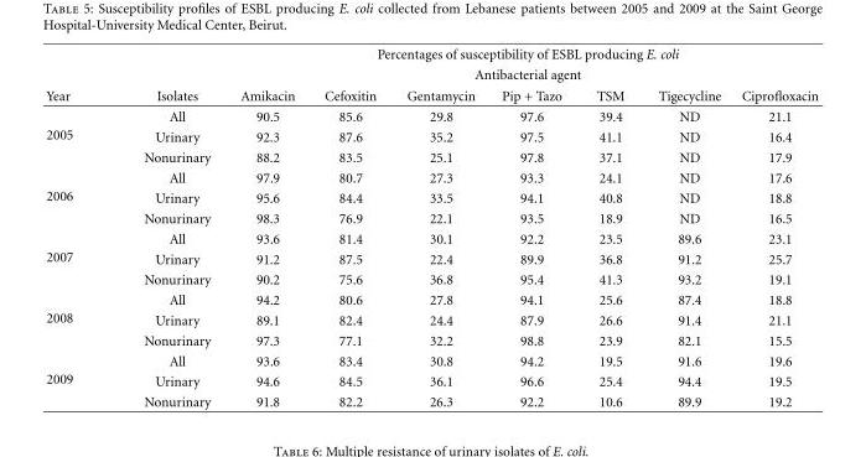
<table><thead><tr><td rowspan="3">Year</td><td rowspan="3">Isolates</td><td rowspan="2" colspan="7">Percentages of susceptibility of ESBL producing E. coli Antibacterial agent</td></tr><tr></tr><tr><td>Amikacin</td><td>Cefoxitin</td><td>Gentamycin</td><td>Pip + Tazo</td><td>TSM</td><td>Tigecycline</td><td>Ciprofloxacin</td></tr></thead><tbody><tr><td rowspan="3">2005</td><td>All</td><td>90.5</td><td>85.6</td><td>29.8</td><td>97.6</td><td>39.4</td><td>ND</td><td>21.1</td></tr><tr><td>Urinary</td><td>92.3</td><td>87.6</td><td>35.2</td><td>97.5</td><td>41.1</td><td>ND</td><td>16.4</td></tr><tr><td>Nonurinary</td><td>88.2</td><td>83.5</td><td>25.1</td><td>97.8</td><td>37.1</td><td>ND</td><td>17.9</td></tr><tr><td rowspan="3">2006</td><td>All</td><td>97.9</td><td>80.7</td><td>27.3</td><td>93.3</td><td>24.1</td><td>ND</td><td>17.6</td></tr><tr><td>Urinary</td><td>95.6</td><td>84.4</td><td>33.5</td><td>94.1</td><td>40.8</td><td>ND</td><td>18.8</td></tr><tr><td>Nonurinary</td><td>98.3</td><td>76.9</td><td>22.1</td><td>93.5</td><td>18.9</td><td>ND</td><td>16.5</td></tr><tr><td rowspan="3">2007</td><td>All</td><td>93.6</td><td>81.4</td><td>30.1</td><td>92.2</td><td>23.5</td><td>89.6</td><td>23.1</td></tr><tr><td>Urinary</td><td>91.2</td><td>87.5</td><td>22.4</td><td>89.9</td><td>36.8</td><td>91.2</td><td>25.7</td></tr><tr><td>Nonurinary</td><td>90.2</td><td>75.6</td><td>36.8</td><td>95.4</td><td>41.3</td><td>93.2</td><td>19.1</td></tr><tr><td rowspan="3">2008</td><td>All</td><td>94.2</td><td>80.6</td><td>27.8</td><td>94.1</td><td>25.6</td><td>87.4</td><td>18.8</td></tr><tr><td>Urinary</td><td>89.1</td><td>82.4</td><td>24.4</td><td>87.9</td><td>26.6</td><td>91.4</td><td>21.1</td></tr><tr><td>Nonurinary</td><td>97.3</td><td>77.1</td><td>32.2</td><td>98.8</td><td>23.9</td><td>82.1</td><td>15.5</td></tr><tr><td rowspan="3">2009</td><td>All</td><td>93.6</td><td>83.4</td><td>30.8</td><td>94.2</td><td>19.5</td><td>91.6</td><td>19.6</td></tr><tr><td>Urinary</td><td>94.6</td><td>84.5</td><td>36.1</td><td>96.6</td><td>25.4</td><td>94.4</td><td>19.5</td></tr><tr><td>Nonurinary</td><td>91.8</td><td>82.2</td><td>26.3</td><td>92.2</td><td>10.6</td><td>89.9</td><td>19.2</td></tr></tbody></table>